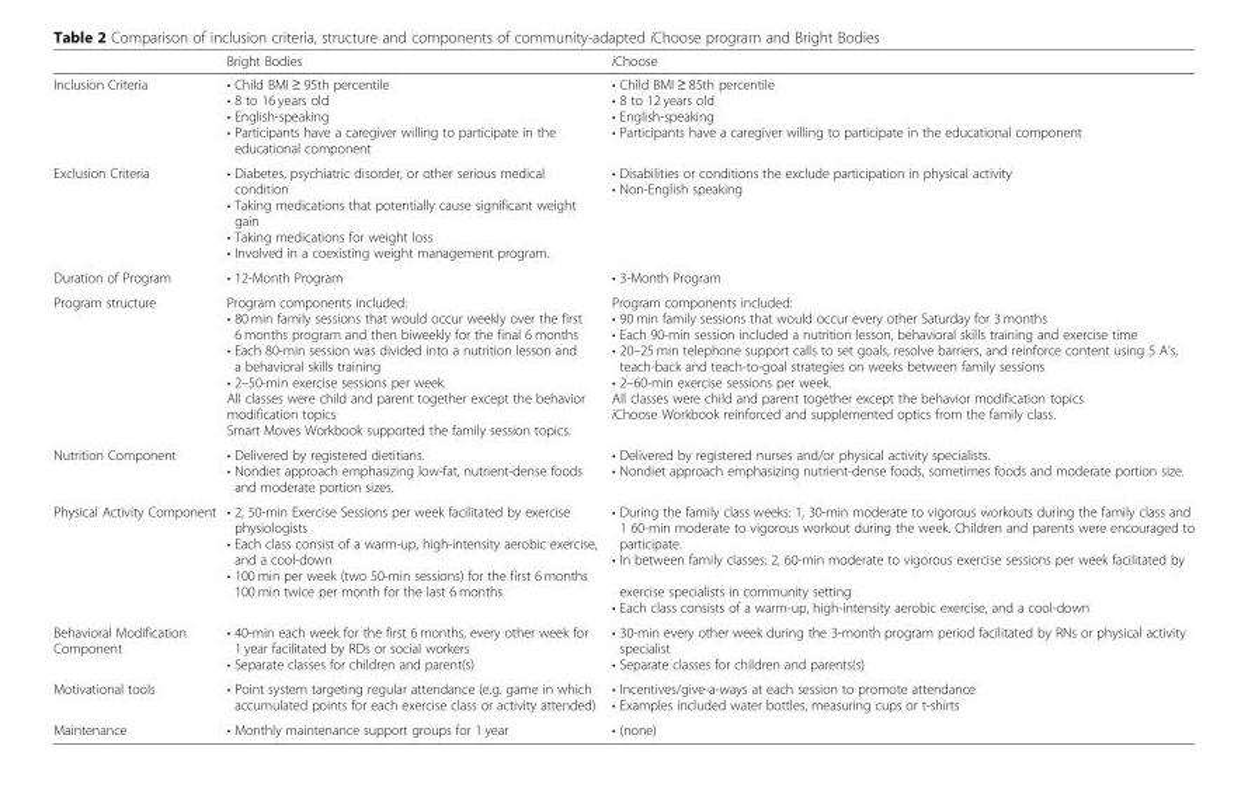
<table><thead><tr><td></td><td>Bright Bodies</td><td>iChoose</td></tr></thead><tbody><tr><td>Inclusion Criteria</td><td>• Child BMI ≥ 95th percentile • 8 to 16 years old • English-speaking • Participants have a caregiver willing to participate in the educational component</td><td>• Child BMI ≥ 85th percentile • 8 to 12 years old • English-speaking • Participants have a caregiver willing to participate in the educational component</td></tr><tr><td>Exclusion Criteria</td><td>• Diabetes, psychiatric disorder, or other serious medical condition • Taking medications that potentially cause significant weight gain • Taking medications for weight loss • Involved in a coexisting weight management program.</td><td>• Disabilities or conditions the exclude participation in physical activity • Non-English speaking</td></tr><tr><td>Duration of Program</td><td>• 12-Month Program</td><td>• 3-Month Program</td></tr><tr><td>Program structure</td><td>Program components included: • 80 min family sessions that would occur weekly over the first 6 months program and then biweekly for the final 6 months • Each 80-min session was divided into a nutrition lesson and a behavioral skills training • 2–50-min exercise sessions per week. All classes were child and parent together except the behavior modification topics Smart Moves Workbook supported the family session topics.</td><td>Program components included: • 90 min family sessions that would occur every other Saturday for 3 months • Each 90-min session included a nutrition lesson, behavioral skills training and exercise time • 20–25 min telephone support calls to set goals, resolve barriers, and reinforce content using 5 A’s, teach-back and teach-to-goal strategies on weeks between family sessions • 2–60-min exercise sessions per week. All classes were child and parent together except the behavior modification topics iChoose Workbook reinforced and supplemented optics from the family class.</td></tr><tr><td>Nutrition Component</td><td>• Delivered by registered dietitians. • Nondiet approach emphasizing low-fat, nutrient-dense foods and moderate portion sizes.</td><td>• Delivered by registered nurses and/or physical activity specialists. • Nondiet approach emphasizing nutrient-dense foods, sometimes foods and moderate portion size.</td></tr><tr><td>Physical Activity Component</td><td>• 2, 50-min Exercise Sessions per week facilitated by exercise physiologists • Each class consist of a warm-up, high-intensity aerobic exercise, and a cool-down • 100 min per week (two 50-min sessions) for the first 6 months 100 min twice per month for the last 6 months</td><td>• During the family class weeks: 1, 30-min moderate to vigorous workouts during the family class and 1 60-min moderate to vigorous workout during the week. Children and parents were encouraged to participate. • In between family classes: 2, 60-min moderate to vigorous exercise sessions per week facilitated by exercise specialists in community setting • Each class consists of a warm-up, high-intensity aerobic exercise, and a cool-down</td></tr><tr><td>Behavioral Modification Component</td><td>• 40-min each week for the first 6 months, every other week for 1 year facilitated by RDs or social workers • Separate classes for children and parent(s)</td><td>• 30-min every other week during the 3-month program period facilitated by RNs or physical activity specialist • Separate classes for children and parents(s)</td></tr><tr><td>Motivational tools</td><td>• Point system targeting regular attendance (e.g. game in which accumulated points for each exercise class or activity attended)</td><td>• Incentives/give-a-ways at each session to promote attendance • Examples included water bottles, measuring cups or t-shirts</td></tr><tr><td>Maintenance</td><td>• Monthly maintenance support groups for 1 year</td><td>• (none)</td></tr></tbody></table>